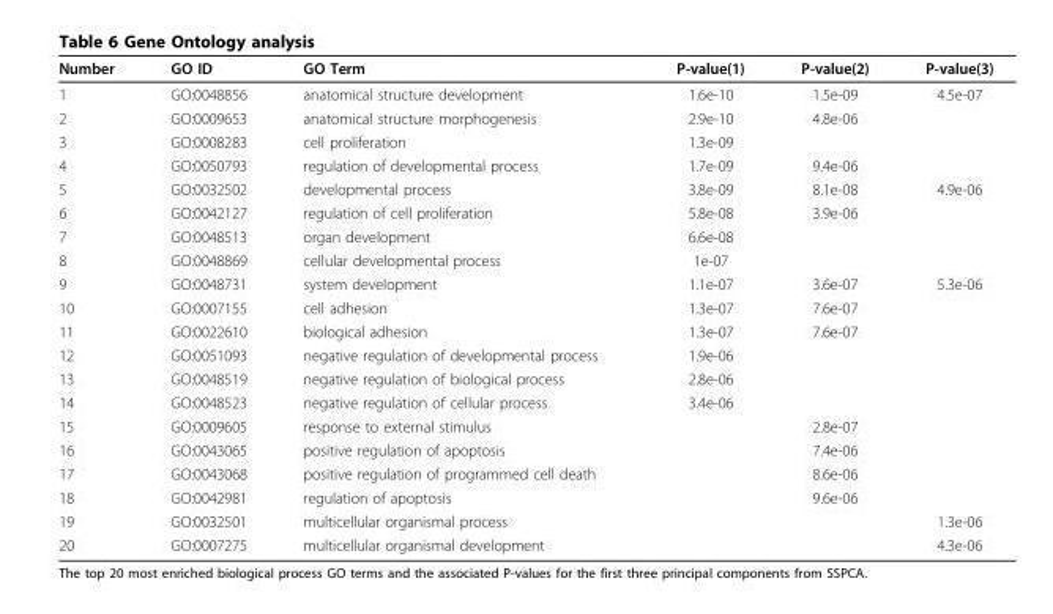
<table><thead><tr><td>Number</td><td>GO ID</td><td>GO Term</td><td>P-value(1)</td><td>P-value(2)</td><td>P-value(3)</td></tr></thead><tbody><tr><td>1</td><td>GO:0048856</td><td>anatomical structure development</td><td>1.6e-10</td><td>1.5e-09</td><td>4.5e-07</td></tr><tr><td>2</td><td>GO:0009653</td><td>anatomical structure morphogenesis</td><td>2.9e-10</td><td>4.8e-06</td><td></td></tr><tr><td>3</td><td>GO:0008283</td><td>cell proliferation</td><td>1.3e-09</td><td></td><td></td></tr><tr><td>4</td><td>GO:0050793</td><td>regulation of developmental process</td><td>1.7e-09</td><td>9.4e-06</td><td></td></tr><tr><td>5</td><td>GO:0032502</td><td>developmental process</td><td>3.8e-09</td><td>8.1e-08</td><td>4.9e-06</td></tr><tr><td>6</td><td>GO:0042127</td><td>regulation of cell proliferation</td><td>5.8e-08</td><td>3.9e-06</td><td></td></tr><tr><td>7</td><td>GO:0048513</td><td>organ development</td><td>6.6e-08</td><td></td><td></td></tr><tr><td>8</td><td>GO:0048869</td><td>cellular developmental process</td><td>1e-07</td><td></td><td></td></tr><tr><td>9</td><td>GO:0048731</td><td>system development</td><td>1.1e-07</td><td>3.6e-07</td><td>5.3e-06</td></tr><tr><td>10</td><td>GO:0007155</td><td>cell adhesion</td><td>1.3e-07</td><td>7.6e-07</td><td></td></tr><tr><td>11</td><td>GO:0022610</td><td>biological adhesion</td><td>1.3e-07</td><td>7.6e-07</td><td></td></tr><tr><td>12</td><td>GO:0051093</td><td>negative regulation of developmental process</td><td>1.9e-06</td><td></td><td></td></tr><tr><td>13</td><td>GO:0048519</td><td>negative regulation of biological process</td><td>2.8e-06</td><td></td><td></td></tr><tr><td>14</td><td>GO:0048523</td><td>negative regulation of cellular process</td><td>3.4e-06</td><td></td><td></td></tr><tr><td>15</td><td>GO:0009605</td><td>response to external stimulus</td><td></td><td>2.8e-07</td><td></td></tr><tr><td>16</td><td>GO:0043065</td><td>positive regulation of apoptosis</td><td></td><td>7.4e-06</td><td></td></tr><tr><td>17</td><td>GO:0043068</td><td>positive regulation of programmed cell death</td><td></td><td>8.6e-06</td><td></td></tr><tr><td>18</td><td>GO:0042981</td><td>regulation of apoptosis</td><td></td><td>9.6e-06</td><td></td></tr><tr><td>19</td><td>GO:0032501</td><td>multicellular organismal process</td><td></td><td></td><td>1.3e-06</td></tr><tr><td>20</td><td>GO:0007275</td><td>multicellular organismal development</td><td></td><td></td><td>4.3e-06</td></tr></tbody></table>